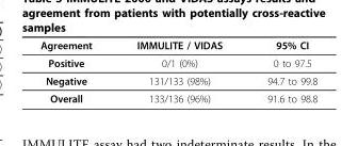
<table><thead><tr><td>Agreement</td><td>IMMULITE / VIDAS</td><td>95% CI</td></tr></thead><tbody><tr><td>Positive</td><td>0/1 (0%)</td><td>0 to 97.5</td></tr><tr><td>Negative</td><td>131/133 (98%)</td><td>94.7 to 99.8</td></tr><tr><td>Overall</td><td>133/136 (96%)</td><td>91.6 to 98.8</td></tr></tbody></table>